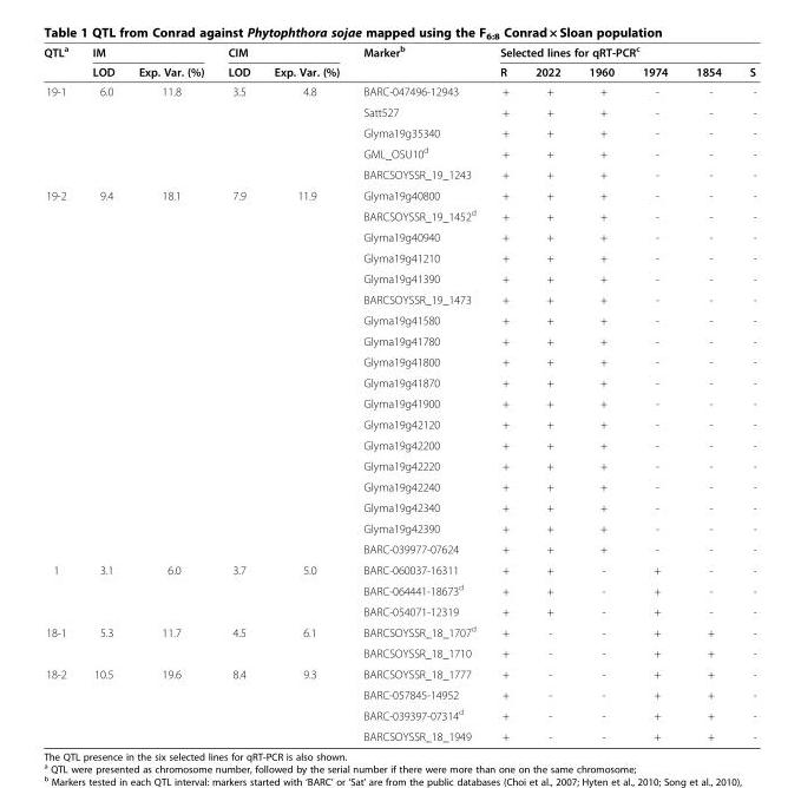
<table><thead><tr><td rowspan="2">QTL<sup>a</sup></td><td colspan="2">IM</td><td colspan="2">CIM</td><td rowspan="2">Marker<sup>b</sup></td><td colspan="6">Selected lines for qRT-PCR<sup>c</sup></td></tr><tr><td>LOD</td><td>Exp. Var. (%)</td><td>LOD</td><td>Exp. Var. (%)</td><td>R</td><td>2022</td><td>1960</td><td>1974</td><td>1854</td><td>S</td></tr></thead><tbody><tr><td rowspan="5">19-1</td><td>6.0</td><td>11.8</td><td>3.5</td><td>4.8</td><td>BARC-047496-12943</td><td>+</td><td>+</td><td>+</td><td>-</td><td>-</td><td>-</td></tr><tr><td></td><td></td><td></td><td></td><td>Satt527</td><td>+</td><td>+</td><td>+</td><td>-</td><td>-</td><td>-</td></tr><tr><td></td><td></td><td></td><td></td><td>Glyma19g35340</td><td>+</td><td>+</td><td>+</td><td>-</td><td>-</td><td>-</td></tr><tr><td></td><td></td><td></td><td></td><td>GML_OSU10<sup>d</sup></td><td>+</td><td>+</td><td>+</td><td>-</td><td>-</td><td>-</td></tr><tr><td></td><td></td><td></td><td></td><td>BARCSOYSSR_19_1243</td><td>+</td><td>+</td><td>+</td><td>-</td><td>-</td><td>-</td></tr><tr><td rowspan="18">19-2</td><td>9.4</td><td>18.1</td><td>7.9</td><td>11.9</td><td>Glyma19g40800</td><td>+</td><td>+</td><td>+</td><td>-</td><td>-</td><td>-</td></tr><tr><td></td><td></td><td></td><td></td><td>BARCSOYSSR_19_1452<sup>d</sup></td><td>+</td><td>+</td><td>+</td><td>-</td><td>-</td><td>-</td></tr><tr><td></td><td></td><td></td><td></td><td>Glyma19g40940</td><td>+</td><td>+</td><td>+</td><td>-</td><td>-</td><td>-</td></tr><tr><td></td><td></td><td></td><td></td><td>Glyma19g41210</td><td>+</td><td>+</td><td>+</td><td>-</td><td>-</td><td>-</td></tr><tr><td></td><td></td><td></td><td></td><td>Glyma19g41390</td><td>+</td><td>+</td><td>+</td><td>-</td><td>-</td><td>-</td></tr><tr><td></td><td></td><td></td><td></td><td>BARCSOYSSR_19_1473</td><td>+</td><td>+</td><td>+</td><td>-</td><td>-</td><td>-</td></tr><tr><td></td><td></td><td></td><td></td><td>Glyma19g41580</td><td>+</td><td>+</td><td>+</td><td>-</td><td>-</td><td>-</td></tr><tr><td></td><td></td><td></td><td></td><td>Glyma19g41780</td><td>+</td><td>+</td><td>+</td><td>-</td><td>-</td><td>-</td></tr><tr><td></td><td></td><td></td><td></td><td>Glyma19g41800</td><td>+</td><td>+</td><td>+</td><td>-</td><td>-</td><td>-</td></tr><tr><td></td><td></td><td></td><td></td><td>Glyma19g41870</td><td>+</td><td>+</td><td>+</td><td>-</td><td>-</td><td>-</td></tr><tr><td></td><td></td><td></td><td></td><td>Glyma19g41900</td><td>+</td><td>+</td><td>+</td><td>-</td><td>-</td><td>-</td></tr><tr><td></td><td></td><td></td><td></td><td>Glyma19g42120</td><td>+</td><td>+</td><td>+</td><td>-</td><td>-</td><td>-</td></tr><tr><td></td><td></td><td></td><td></td><td>Glyma19g42200</td><td>+</td><td>+</td><td>+</td><td>-</td><td>-</td><td>-</td></tr><tr><td></td><td></td><td></td><td></td><td>Glyma19g42220</td><td>+</td><td>+</td><td>+</td><td>-</td><td>-</td><td>-</td></tr><tr><td></td><td></td><td></td><td></td><td>Glyma19g42240</td><td>+</td><td>+</td><td>+</td><td>-</td><td>-</td><td>-</td></tr><tr><td></td><td></td><td></td><td></td><td>Glyma19g42340</td><td>+</td><td>+</td><td>+</td><td>-</td><td>-</td><td>-</td></tr><tr><td></td><td></td><td></td><td></td><td>Glyma19g42390</td><td>+</td><td>+</td><td>+</td><td>-</td><td>-</td><td>-</td></tr><tr><td></td><td></td><td></td><td></td><td>BARC-039977-07624</td><td>+</td><td>+</td><td>+</td><td>-</td><td>-</td><td>-</td></tr><tr><td rowspan="3">1</td><td>3.1</td><td>6.0</td><td>3.7</td><td>5.0</td><td>BARC-060037-16311</td><td>+</td><td>+</td><td>-</td><td>+</td><td>-</td><td>-</td></tr><tr><td></td><td></td><td></td><td></td><td>BARC-064441-18673<sup>d</sup></td><td>+</td><td>+</td><td>-</td><td>+</td><td>-</td><td>-</td></tr><tr><td></td><td></td><td></td><td></td><td>BARC-054071-12319</td><td>+</td><td>+</td><td>-</td><td>+</td><td>-</td><td>-</td></tr><tr><td rowspan="2">18-1</td><td>5.3</td><td>11.7</td><td>4.5</td><td>6.1</td><td>BARCSOYSSR_18_1707<sup>d</sup></td><td>+</td><td>-</td><td>-</td><td>+</td><td>+</td><td>-</td></tr><tr><td></td><td></td><td></td><td></td><td>BARCSOYSSR_18_1710</td><td>+</td><td>-</td><td>-</td><td>+</td><td>+</td><td>-</td></tr><tr><td rowspan="4">18-2</td><td>10.5</td><td>19.6</td><td>8.4</td><td>9.3</td><td>BARCSOYSSR_18_1777</td><td>+</td><td>-</td><td>-</td><td>+</td><td>+</td><td>-</td></tr><tr><td></td><td></td><td></td><td></td><td>BARC-057845-14952</td><td>+</td><td>-</td><td>-</td><td>+</td><td>+</td><td>-</td></tr><tr><td></td><td></td><td></td><td></td><td>BARC-039397-07314<sup>d</sup></td><td>+</td><td>-</td><td>-</td><td>+</td><td>+</td><td>-</td></tr><tr><td></td><td></td><td></td><td></td><td>BARCSOYSSR_18_1949</td><td>+</td><td>-</td><td>-</td><td>+</td><td>+</td><td>-</td></tr></tbody></table>